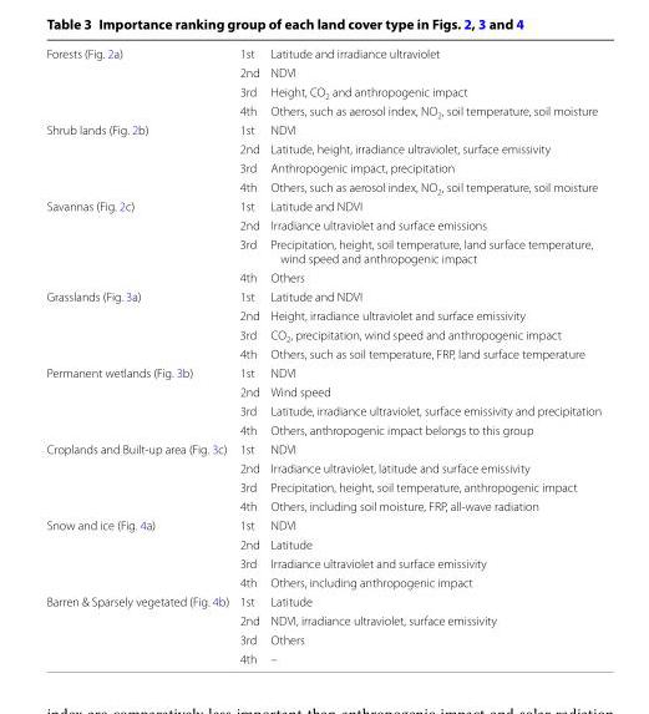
<table><tbody><tr><td rowspan="4">Forests (Fig. 2a)</td><td>1st</td><td>Latitude and irradiance ultraviolet</td></tr><tr><td>2nd</td><td>NDVI</td></tr><tr><td>3rd</td><td>Height, CO<sub>2</sub> and anthropogenic impact</td></tr><tr><td>4th</td><td>Others, such as aerosol index, NO<sub>2</sub>, soil temperature, soil moisture</td></tr><tr><td rowspan="4">Shrub lands (Fig. 2b)</td><td>1st</td><td>NDVI</td></tr><tr><td>2nd</td><td>Latitude, height, irradiance ultraviolet, surface emissivity</td></tr><tr><td>3rd</td><td>Anthropogenic impact, precipitation</td></tr><tr><td>4th</td><td>Others, such as aerosol index, NO<sub>2</sub>, soil temperature, soil moisture</td></tr><tr><td rowspan="4">Savannas (Fig. 2c)</td><td>1st</td><td>Latitude and NDVI</td></tr><tr><td>2nd</td><td>Irradiance ultraviolet and surface emissions</td></tr><tr><td>3rd</td><td>Precipitation, height, soil temperature, land surface temperature, wind speed and anthropogenic impact</td></tr><tr><td>4th</td><td>Others</td></tr><tr><td rowspan="4">Grasslands (Fig. 3a)</td><td>1st</td><td>Latitude and NDVI</td></tr><tr><td>2nd</td><td>Height, irradiance ultraviolet and surface emissivity</td></tr><tr><td>3rd</td><td>CO<sub>2</sub>, precipitation, wind speed and anthropogenic impact</td></tr><tr><td>4th</td><td>Others, such as soil temperature, FRP, land surface temperature</td></tr><tr><td rowspan="4">Permanent wetlands (Fig. 3b)</td><td>1st</td><td>NDVI</td></tr><tr><td>2nd</td><td>Wind speed</td></tr><tr><td>3rd</td><td>Latitude, irradiance ultraviolet, surface emissivity and precipitation</td></tr><tr><td>4th</td><td>Others, anthropogenic impact belongs to this group</td></tr><tr><td rowspan="4">Croplands and Built-up area (Fig. 3c)</td><td>1st</td><td>NDVI</td></tr><tr><td>2nd</td><td>Irradiance ultraviolet, latitude and surface emissivity</td></tr><tr><td>3rd</td><td>Precipitation, height, soil temperature, anthropogenic impact</td></tr><tr><td>4th</td><td>Others, including soil moisture, FRP, all-wave radiation</td></tr><tr><td rowspan="4">Snow and ice (Fig. 4a)</td><td>1st</td><td>NDVI</td></tr><tr><td>2nd</td><td>Latitude</td></tr><tr><td>3rd</td><td>Irradiance ultraviolet and surface emissivity</td></tr><tr><td>4th</td><td>Others, including anthropogenic impact</td></tr><tr><td rowspan="4">Barren &amp; Sparsely vegetated (Fig. 4b)</td><td>1st</td><td>Latitude</td></tr><tr><td>2nd</td><td>NDVI, irradiance ultraviolet, surface emissivity</td></tr><tr><td>3rd</td><td>Others</td></tr><tr><td>4th</td><td>–</td></tr></tbody></table>